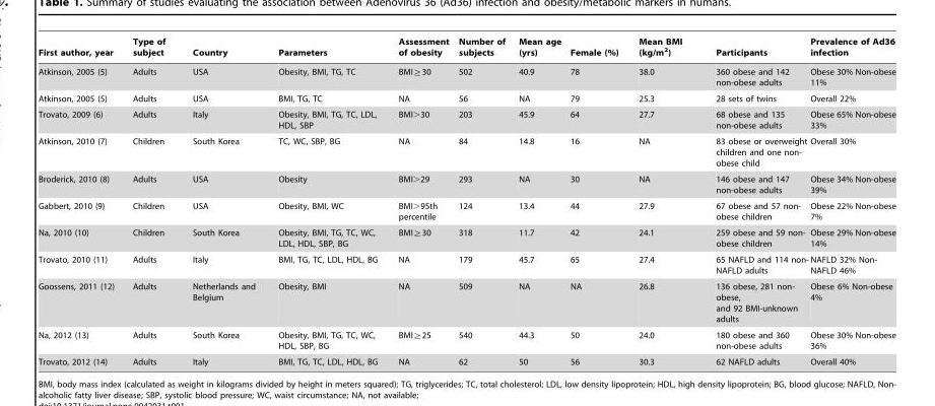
<table><thead><tr><td>First author, year</td><td>Type of subject</td><td>Country</td><td>Parameters</td><td>Assessment of obesity</td><td>Number of subjects</td><td>Mean age (yrs)</td><td>Female (%)</td><td>Mean BMI (kg/m<sup>2</sup>)</td><td>Participants</td><td>Prevalence of Ad36 infection</td></tr></thead><tbody><tr><td>Atkinson, 2005 (5)</td><td>Adults</td><td>USA</td><td>Obesity, BMI, TG, TC</td><td>BMI≧30</td><td>502</td><td>40.9</td><td>78</td><td>38.0</td><td>360 obese and 142 non-obese adults</td><td>Obese 30% Non-obese 11%</td></tr><tr><td>Atkinson, 2005 (5)</td><td>Adults</td><td>USA</td><td>BMI, TG, TC</td><td>NA</td><td>56</td><td>NA</td><td>79</td><td>25.3</td><td>28 sets of twins</td><td>Overall 22%</td></tr><tr><td>Trovato, 2009 (6)</td><td>Adults</td><td>Italy</td><td>Obesity, BMI, TG, TC, LDL, HDL, SBP</td><td>BMI&gt;30</td><td>203</td><td>45.9</td><td>64</td><td>27.7</td><td>68 obese and 135 non-obese adults</td><td>Obese 65% Non-obese 33%</td></tr><tr><td>Atkinson, 2010 (7)</td><td>Children</td><td>South Korea</td><td>TC, WC, SBP, BG</td><td>NA</td><td>84</td><td>14.8</td><td>16</td><td>NA</td><td>83 obese or overweight children and one non- obese child</td><td>Overall 30%</td></tr><tr><td>Broderick, 2010 (8)</td><td>Adults</td><td>USA</td><td>Obesity</td><td>BMI&gt;29</td><td>293</td><td>NA</td><td>30</td><td>NA</td><td>146 obese and 147 non-obese adults</td><td>Obese 34% Non-obese 39%</td></tr><tr><td>Gabbert, 2010 (9)</td><td>Children</td><td>USA</td><td>Obesity, BMI, WC</td><td>BMI&gt;95th percentile</td><td>124</td><td>13.4</td><td>44</td><td>27.9</td><td>67 obese and 57 non- obese children</td><td>Obese 22% Non-obese 7%</td></tr><tr><td>Na, 2010 (10)</td><td>Children</td><td>South Korea</td><td>Obesity, BMI, TG, TC, WC, LDL, HDL, SBP, BG</td><td>BMI≧30</td><td>318</td><td>11.7</td><td>42</td><td>24.1</td><td>259 obese and 59 non- obese children</td><td>Obese 29% Non-obese 14%</td></tr><tr><td>Trovato, 2010 (11)</td><td>Adults</td><td>Italy</td><td>BMI, TG, TC, LDL, HDL, BG</td><td>NA</td><td>179</td><td>45.7</td><td>65</td><td>27.4</td><td>65 NAFLD and 114 non- NAFLD adults</td><td>NAFLD 32% Non- NAFLD 46%</td></tr><tr><td>Goossens, 2011 (12)</td><td>Adults</td><td>Netherlands and Belgium</td><td>Obesity, BMI</td><td>NA</td><td>509</td><td>NA</td><td>NA</td><td>26.8</td><td>136 obese, 281 non- obese, and 92 BMI-unknown adults</td><td>Obese 6% Non-obese 4%</td></tr><tr><td>Na, 2012 (13)</td><td>Adults</td><td>South Korea</td><td>Obesity, BMI, TG, TC, WC, HDL, SBP, BG</td><td>BMI≧25</td><td>540</td><td>44.3</td><td>50</td><td>24.0</td><td>180 obese and 360 non-obese adults</td><td>Obese 30% Non-obese 36%</td></tr><tr><td>Trovato, 2012 (14)</td><td>Adults</td><td>Italy</td><td>BMI, TG, TC, LDL, HDL, BG</td><td>NA</td><td>62</td><td>50</td><td>56</td><td>30.3</td><td>62 NAFLD adults</td><td>Overall 40%</td></tr></tbody></table>